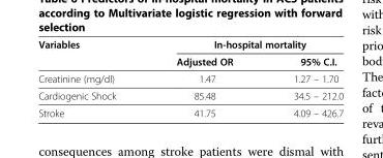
<table><thead><tr><td rowspan="2">Variables</td><td colspan="2">In-hospital mortality</td></tr><tr><td>Adjusted OR</td><td>95% C.I.</td></tr></thead><tbody><tr><td>Creatinine (mg/dl)</td><td>1.47</td><td>1.27 – 1.70</td></tr><tr><td>Cardiogenic Shock</td><td>85.48</td><td>34.5 – 212.0</td></tr><tr><td>Stroke</td><td>41.75</td><td>4.09 – 426.7</td></tr></tbody></table>